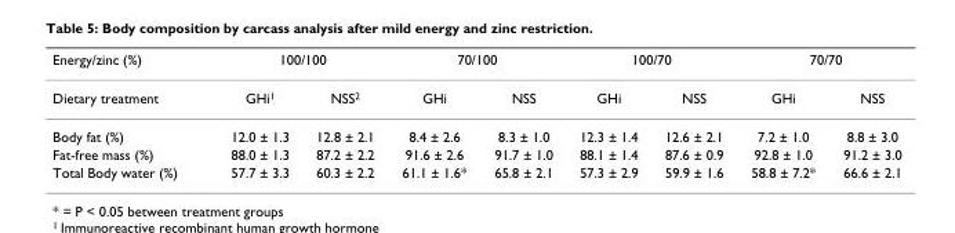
<table><thead><tr><td rowspan="2">Energy/zinc (%) Dietary treatment</td><td colspan="2">100/100</td><td colspan="2">70/100</td><td colspan="2">100/70</td><td colspan="2">70/70</td></tr><tr><td>GHi<sup>1</sup></td><td>NSS<sup>2</sup></td><td>GHi</td><td>NSS</td><td>GHi</td><td>NSS</td><td>GHi</td><td>NSS</td></tr></thead><tbody><tr><td>Body fat (%)</td><td>12.0 ± 1.3</td><td>12.8 ± 2.1</td><td>8.4 ± 2.6</td><td>8.3 ± 1.0</td><td>12.3 ± 1.4</td><td>12.6 ± 2.1</td><td>7.2 ± 1.0</td><td>8.8 ± 3.0</td></tr><tr><td>Fat-free mass (%)</td><td>88.0 ± 1.3</td><td>87.2 ± 2.2</td><td>91.6 ± 2.6</td><td>91.7 ± 1.0</td><td>88.1 ± 1.4</td><td>87.6 ± 0.9</td><td>92.8 ± 1.0</td><td>91.2 ± 3.0</td></tr><tr><td>Total Body water (%)</td><td>57.7 ± 3.3</td><td>60.3 ± 2.2</td><td>61.1 ± 1.6*</td><td>65.8 ± 2.1</td><td>57.3 ± 2.9</td><td>59.9 ± 1.6</td><td>58.8 ± 7.2*</td><td>66.6 ± 2.1</td></tr></tbody></table>